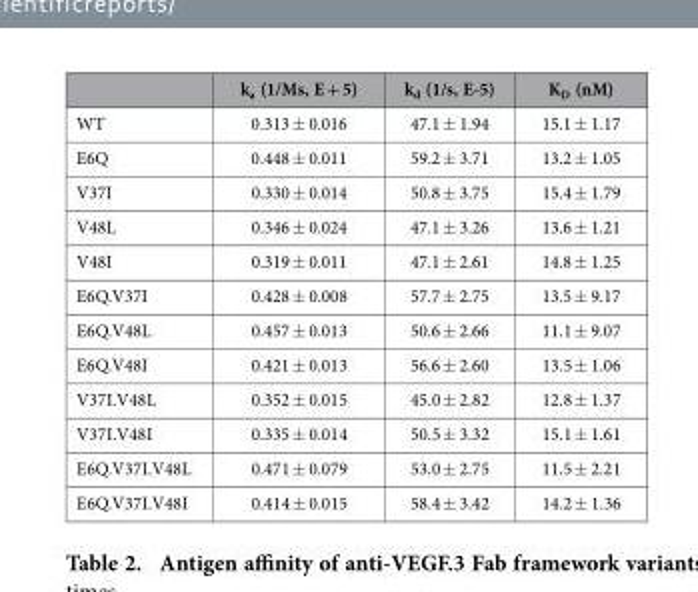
<table><thead><tr><td></td><td>k<sub>a</sub> (1/Ms, E + 5)</td><td>k<sub>d</sub> (1/s, E-5)</td><td>K<sub>D</sub> (nM)</td></tr></thead><tbody><tr><td>WT</td><td>0.313 ± 0.016</td><td>47.1 ± 1.94</td><td>15.1 ± 1.17</td></tr><tr><td>E6Q</td><td>0.448 ± 0.011</td><td>59.2 ± 3.71</td><td>13.2 ± 1.05</td></tr><tr><td>V37I</td><td>0.330 ± 0.014</td><td>50.8 ± 3.75</td><td>15.4 ± 1.79</td></tr><tr><td>V48L</td><td>0.346 ± 0.024</td><td>47.1 ± 3.26</td><td>13.6 ± 1.21</td></tr><tr><td>V48I</td><td>0.319 ± 0.011</td><td>47.1 ± 2.61</td><td>14.8 ± 1.25</td></tr><tr><td>E6Q.V37I</td><td>0.428 ± 0.008</td><td>57.7 ± 2.75</td><td>13.5 ± 9.17</td></tr><tr><td>E6Q.V48L</td><td>0.457 ± 0.013</td><td>50.6 ± 2.66</td><td>11.1 ± 9.07</td></tr><tr><td>E6Q.V48I</td><td>0.421 ± 0.013</td><td>56.6 ± 2.60</td><td>13.5 ± 1.06</td></tr><tr><td>V37I.V48L</td><td>0.352 ± 0.015</td><td>45.0 ± 2.82</td><td>12.8 ± 1.37</td></tr><tr><td>V37I.V48I</td><td>0.335 ± 0.014</td><td>50.5 ± 3.32</td><td>15.1 ± 1.61</td></tr><tr><td>E6Q.V37I.V48L</td><td>0.471 ± 0.079</td><td>53.0 ± 2.75</td><td>11.5 ± 2.21</td></tr><tr><td>E6Q.V37I.V48I</td><td>0.414 ± 0.015</td><td>58.4 ± 3.42</td><td>14.2 ± 1.36</td></tr></tbody></table>